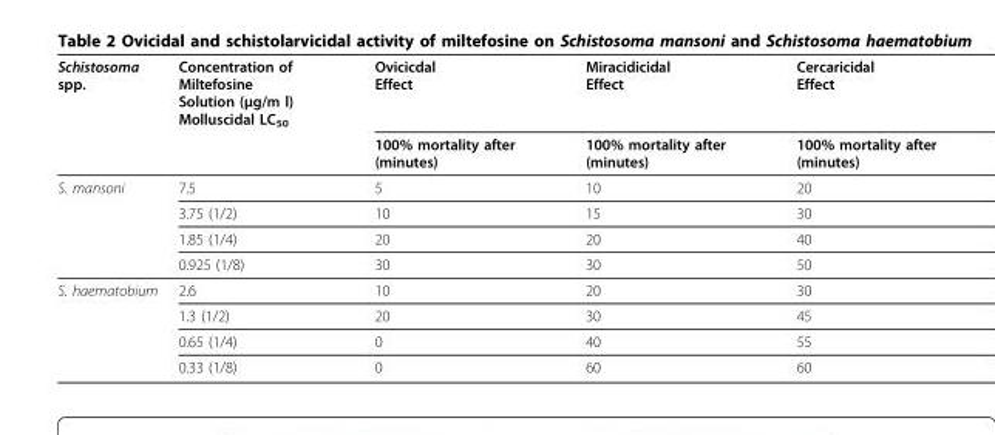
<table><thead><tr><td rowspan="2">Schistosoma spp.</td><td rowspan="2">Concentration of Miltefosine Solution (μg/m l) Molluscidal LC<sub>50</sub></td><td rowspan="2">Ovicicdal Effect 100% mortality after (minutes)</td><td rowspan="2">Miracidicidal Effect 100% mortality after (minutes)</td><td rowspan="2">Cercaricidal Effect 100% mortality after (minutes)</td></tr><tr></tr></thead><tbody><tr><td rowspan="4">S. mansoni</td><td>7.5</td><td>5</td><td>10</td><td>20</td></tr><tr><td>3.75 (1/2)</td><td>10</td><td>15</td><td>30</td></tr><tr><td>1.85 (1/4)</td><td>20</td><td>20</td><td>40</td></tr><tr><td>0.925 (1/8)</td><td>30</td><td>30</td><td>50</td></tr><tr><td rowspan="4">S. haematobium</td><td>2.6</td><td>10</td><td>20</td><td>30</td></tr><tr><td>1.3 (1/2)</td><td>20</td><td>30</td><td>45</td></tr><tr><td>0.65 (1/4)</td><td>0</td><td>40</td><td>55</td></tr><tr><td>0.33 (1/8)</td><td>0</td><td>60</td><td>60</td></tr></tbody></table>